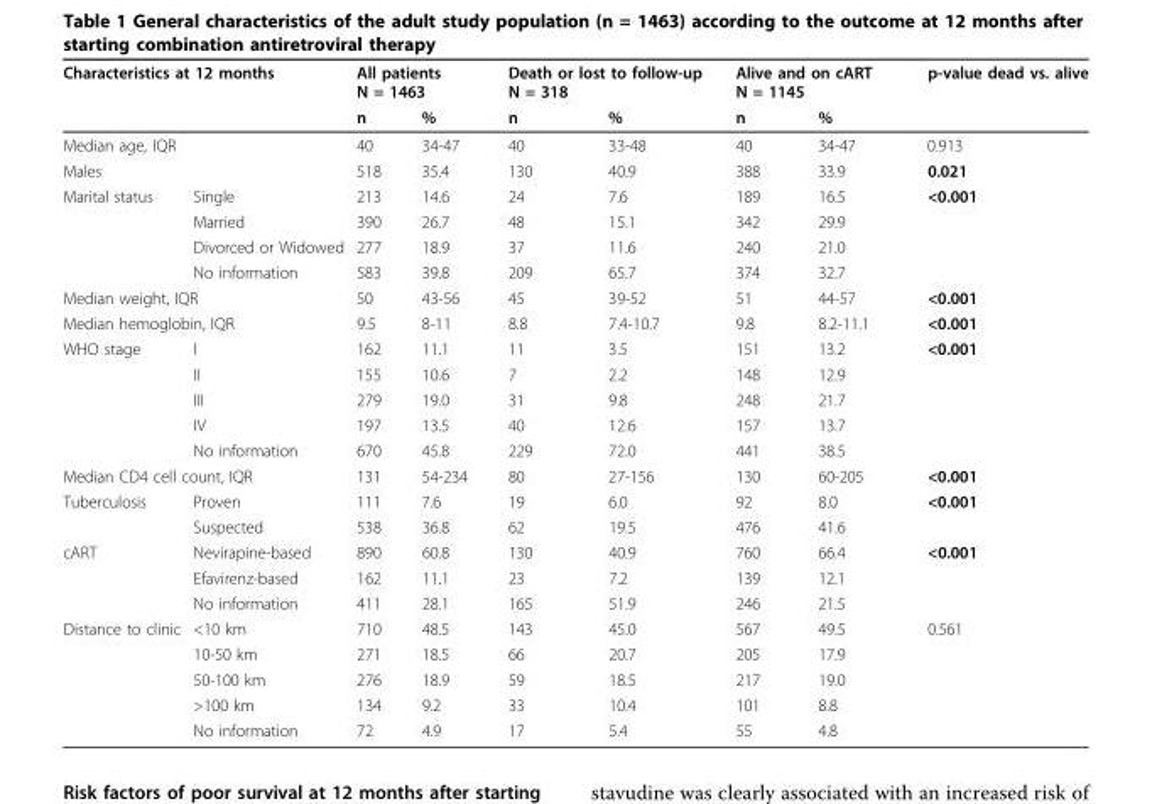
<table><thead><tr><td colspan="2">Characteristics at 12 months</td><td colspan="2">All patients N = 1463</td><td colspan="2">Death or lost to follow-up N = 318</td><td colspan="2">Alive and on cART N = 1145</td><td rowspan="2">p-value dead vs. alive</td></tr><tr><td></td><td></td><td>n</td><td>%</td><td>n</td><td>%</td><td>n</td><td>%</td></tr></thead><tbody><tr><td colspan="2">Median age, IQR</td><td>40</td><td>34-47</td><td>40</td><td>33-48</td><td>40</td><td>34-47</td><td>0.913</td></tr><tr><td>Males</td><td></td><td>518</td><td>35.4</td><td>130</td><td>40.9</td><td>388</td><td>33.9</td><td>0.021</td></tr><tr><td rowspan="4">Marital status</td><td>Single</td><td>213</td><td>14.6</td><td>24</td><td>7.6</td><td>189</td><td>16.5</td><td>&lt;0.001</td></tr><tr><td>Married</td><td>390</td><td>26.7</td><td>48</td><td>15.1</td><td>342</td><td>29.9</td><td></td></tr><tr><td>Divorced or Widowed</td><td>277</td><td>18.9</td><td>37</td><td>11.6</td><td>240</td><td>21.0</td><td></td></tr><tr><td>No information</td><td>583</td><td>39.8</td><td>209</td><td>65.7</td><td>374</td><td>32.7</td><td></td></tr><tr><td colspan="2">Median weight, IQR</td><td>50</td><td>43-56</td><td>45</td><td>39-52</td><td>51</td><td>44-57</td><td>&lt;0.001</td></tr><tr><td colspan="2">Median hemoglobin, IQR</td><td>9.5</td><td>8-11</td><td>8.8</td><td>7.4-10.7</td><td>9.8</td><td>8.2-11.1</td><td>&lt;0.001</td></tr><tr><td rowspan="5">WHO stage</td><td>I</td><td>162</td><td>11.1</td><td>11</td><td>3.5</td><td>151</td><td>13.2</td><td>&lt;0.001</td></tr><tr><td>II</td><td>155</td><td>10.6</td><td>7</td><td>2.2</td><td>148</td><td>12.9</td><td></td></tr><tr><td>III</td><td>279</td><td>19.0</td><td>31</td><td>9.8</td><td>248</td><td>21.7</td><td></td></tr><tr><td>IV</td><td>197</td><td>13.5</td><td>40</td><td>12.6</td><td>157</td><td>13.7</td><td></td></tr><tr><td>No information</td><td>670</td><td>45.8</td><td>229</td><td>72.0</td><td>441</td><td>38.5</td><td></td></tr><tr><td colspan="2">Median CD4 cell count, IQR</td><td>131</td><td>54-234</td><td>80</td><td>27-156</td><td>130</td><td>60-205</td><td>&lt;0.001</td></tr><tr><td rowspan="2">Tuberculosis</td><td>Proven</td><td>111</td><td>7.6</td><td>19</td><td>6.0</td><td>92</td><td>8.0</td><td>&lt;0.001</td></tr><tr><td>Suspected</td><td>538</td><td>36.8</td><td>62</td><td>19.5</td><td>476</td><td>41.6</td><td></td></tr><tr><td rowspan="3">cART</td><td>Nevirapine-based</td><td>890</td><td>60.8</td><td>130</td><td>40.9</td><td>760</td><td>66.4</td><td>&lt;0.001</td></tr><tr><td>Efavirenz-based</td><td>162</td><td>11.1</td><td>23</td><td>7.2</td><td>139</td><td>12.1</td><td></td></tr><tr><td>No information</td><td>411</td><td>28.1</td><td>165</td><td>51.9</td><td>246</td><td>21.5</td><td></td></tr><tr><td rowspan="5">Distance to clinic</td><td>&lt;10 km</td><td>710</td><td>48.5</td><td>143</td><td>45.0</td><td>567</td><td>49.5</td><td>0.561</td></tr><tr><td>10-50 km</td><td>271</td><td>18.5</td><td>66</td><td>20.7</td><td>205</td><td>17.9</td><td></td></tr><tr><td>50-100 km</td><td>276</td><td>18.9</td><td>59</td><td>18.5</td><td>217</td><td>19.0</td><td></td></tr><tr><td>&gt;100 km</td><td>134</td><td>9.2</td><td>33</td><td>10.4</td><td>101</td><td>8.8</td><td></td></tr><tr><td>No information</td><td>72</td><td>4.9</td><td>17</td><td>5.4</td><td>55</td><td>4.8</td><td></td></tr></tbody></table>